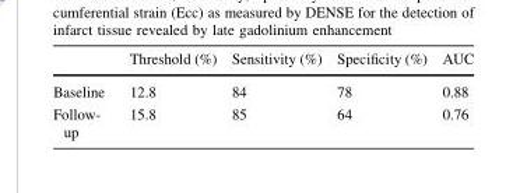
<table><thead><tr><td></td><td>Threshold (%)</td><td>Sensitivity (%)</td><td>Specificity (%)</td><td>AUC</td></tr></thead><tbody><tr><td>Baseline</td><td>12.8</td><td>84</td><td>78</td><td>0.88</td></tr><tr><td>Follow- up</td><td>15.8</td><td>85</td><td>64</td><td>0.76</td></tr></tbody></table>